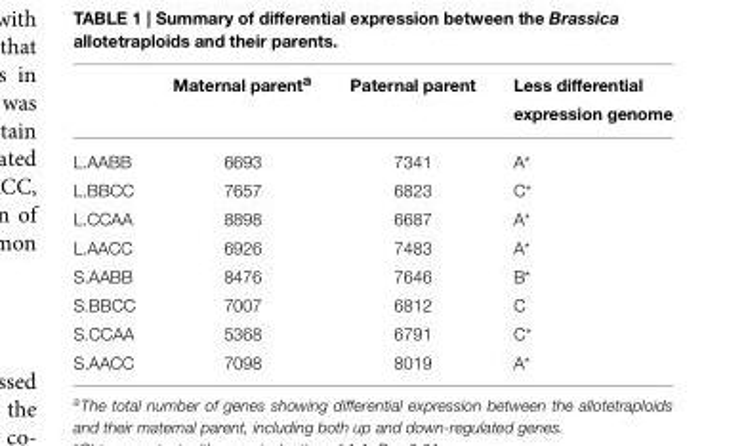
<table><thead><tr><td></td><td>Maternal parent<sup>a</sup></td><td>Paternal parent</td><td>Less differential expression genome</td></tr></thead><tbody><tr><td>L.AABB</td><td>6693</td><td>7341</td><td>A*</td></tr><tr><td>L.BBCC</td><td>7657</td><td>6823</td><td>C*</td></tr><tr><td>L.CCAA</td><td>8898</td><td>6687</td><td>A*</td></tr><tr><td>L.AACC</td><td>6926</td><td>7483</td><td>A*</td></tr><tr><td>S.AABB</td><td>8476</td><td>7646</td><td>B*</td></tr><tr><td>S.BBCC</td><td>7007</td><td>6812</td><td>C</td></tr><tr><td>S.CCAA</td><td>5368</td><td>6791</td><td>C*</td></tr><tr><td>S.AACC</td><td>7098</td><td>8019</td><td>A*</td></tr></tbody></table>